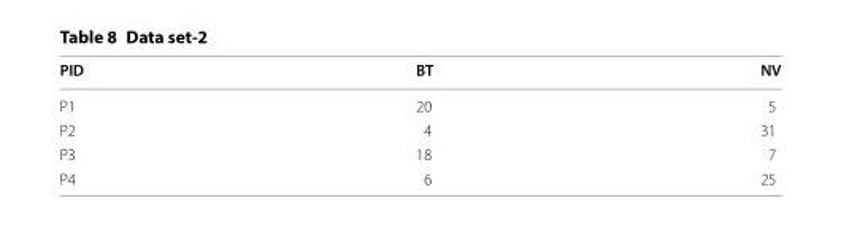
<table><thead><tr><td>PID</td><td>BT</td><td>NV</td></tr></thead><tbody><tr><td>P1</td><td>20</td><td>5</td></tr><tr><td>P2</td><td>4</td><td>31</td></tr><tr><td>P3</td><td>18</td><td>7</td></tr><tr><td>P4</td><td>6</td><td>25</td></tr></tbody></table>